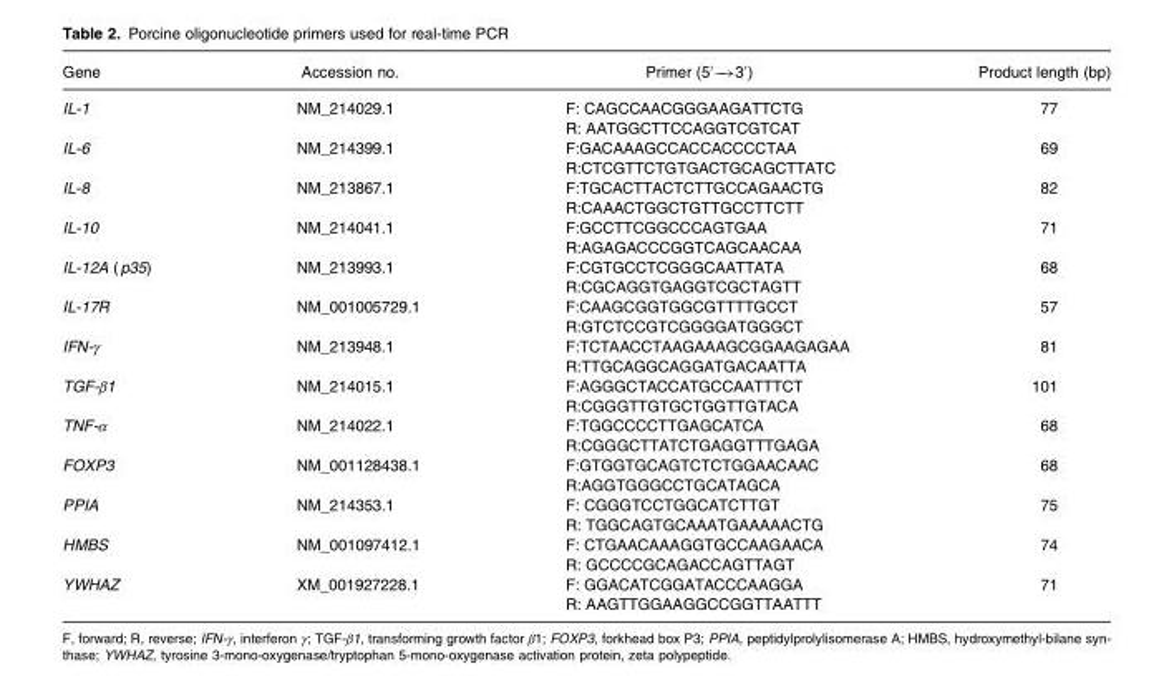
<table><thead><tr><td>Gene</td><td>Accession no.</td><td>Primer (5′−�3′)</td><td>Product length (bp)</td></tr></thead><tbody><tr><td rowspan="2">IL-1</td><td>NM_214029.1</td><td>F: CAGCCAACGGGAAGATTCTG</td><td>77</td></tr><tr><td></td><td>R: AATGGCTTCCAGGTCGTCAT</td><td></td></tr><tr><td rowspan="2">IL-6</td><td>NM_214399.1</td><td>F:GACAAAGCCACCACCCCTAA</td><td>69</td></tr><tr><td></td><td>R:CTCGTTCTGTGACTGCAGCTTATC</td><td></td></tr><tr><td rowspan="2">IL-8</td><td>NM_213867.1</td><td>F:TGCACTTACTCTTGCCAGAACTG</td><td>82</td></tr><tr><td></td><td>R:CAAACTGGCTGTTGCCTTCTT</td><td></td></tr><tr><td rowspan="2">IL-10</td><td>NM_214041.1</td><td>F:GCCTTCGGCCCAGTGAA</td><td>71</td></tr><tr><td></td><td>R:AGAGACCCGGTCAGCAACAA</td><td></td></tr><tr><td rowspan="2">IL-12A (p35)</td><td>NM_213993.1</td><td>F:CGTGCCTCGGGCAATTATA</td><td>68</td></tr><tr><td></td><td>R:CGCAGGTGAGGTCGCTAGTT</td><td></td></tr><tr><td rowspan="2">IL-17R</td><td>NM_001005729.1</td><td>F:CAAGCGGTGGCGTTTTGCCT</td><td>57</td></tr><tr><td></td><td>R:GTCTCCGTCGGGGATGGGCT</td><td></td></tr><tr><td rowspan="2">IFN-γ</td><td>NM_213948.1</td><td>F:TCTAACCTAAGAAAGCGGAAGAGAA</td><td>81</td></tr><tr><td></td><td>R:TTGCAGGCAGGATGACAATTA</td><td></td></tr><tr><td rowspan="2">TGF-β1</td><td>NM_214015.1</td><td>F:AGGGCTACCATGCCAATTTCT</td><td>101</td></tr><tr><td></td><td>R:CGGGTTGTGCTGGTTGTACA</td><td></td></tr><tr><td rowspan="2">TNF-α</td><td>NM_214022.1</td><td>F:TGGCCCCTTGAGCATCA</td><td>68</td></tr><tr><td></td><td>R:CGGGCTTATCTGAGGTTTGAGA</td><td></td></tr><tr><td rowspan="2">FOXP3</td><td>NM_001128438.1</td><td>F:GTGGTGCAGTCTCTGGAACAAC</td><td>68</td></tr><tr><td></td><td>R:AGGTGGGCCTGCATAGCA</td><td></td></tr><tr><td rowspan="2">PPIA</td><td>NM_214353.1</td><td>F: CGGGTCCTGGCATCTTGT</td><td>75</td></tr><tr><td></td><td>R: TGGCAGTGCAAATGAAAAACTG</td><td></td></tr><tr><td rowspan="2">HMBS</td><td>NM_001097412.1</td><td>F: CTGAACAAAGGTGCCAAGAACA</td><td>74</td></tr><tr><td></td><td>R: GCCCCGCAGACCAGTTAGT</td><td></td></tr><tr><td rowspan="2">YWHAZ</td><td>XM_001927228.1</td><td>F: GGACATCGGATACCCAAGGA</td><td>71</td></tr><tr><td></td><td>R: AAGTTGGAAGGCCGGTTAATTT</td><td></td></tr></tbody></table>